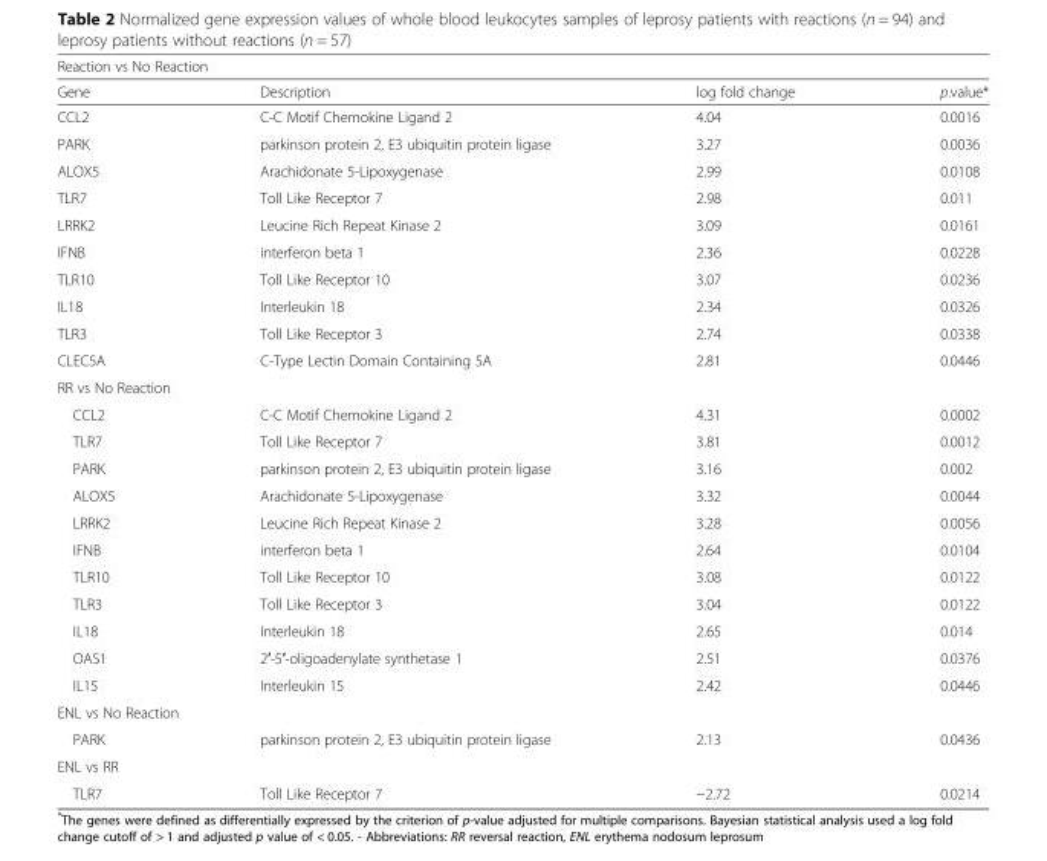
<table><thead><tr><td colspan="4">Reaction vs No Reaction</td></tr><tr><td>Gene</td><td>Description</td><td>log fold change</td><td>p.value*</td></tr></thead><tbody><tr><td>CCL2</td><td>C-C Motif Chemokine Ligand 2</td><td>4.04</td><td>0.0016</td></tr><tr><td>PARK</td><td>parkinson protein 2, E3 ubiquitin protein ligase</td><td>3.27</td><td>0.0036</td></tr><tr><td>ALOX5</td><td>Arachidonate 5-Lipoxygenase</td><td>2.99</td><td>0.0108</td></tr><tr><td>TLR7</td><td>Toll Like Receptor 7</td><td>2.98</td><td>0.011</td></tr><tr><td>LRRK2</td><td>Leucine Rich Repeat Kinase 2</td><td>3.09</td><td>0.0161</td></tr><tr><td>IFNB</td><td>interferon beta 1</td><td>2.36</td><td>0.0228</td></tr><tr><td>TLR10</td><td>Toll Like Receptor 10</td><td>3.07</td><td>0.0236</td></tr><tr><td>IL18</td><td>Interleukin 18</td><td>2.34</td><td>0.0326</td></tr><tr><td>TLR3</td><td>Toll Like Receptor 3</td><td>2.74</td><td>0.0338</td></tr><tr><td>CLEC5A</td><td>C-Type Lectin Domain Containing 5A</td><td>2.81</td><td>0.0446</td></tr><tr><td colspan="4">RR vs No Reaction</td></tr><tr><td>CCL2</td><td>C-C Motif Chemokine Ligand 2</td><td>4.31</td><td>0.0002</td></tr><tr><td>TLR7</td><td>Toll Like Receptor 7</td><td>3.81</td><td>0.0012</td></tr><tr><td>PARK</td><td>parkinson protein 2, E3 ubiquitin protein ligase</td><td>3.16</td><td>0.002</td></tr><tr><td>ALOX5</td><td>Arachidonate 5-Lipoxygenase</td><td>3.32</td><td>0.0044</td></tr><tr><td>LRRK2</td><td>Leucine Rich Repeat Kinase 2</td><td>3.28</td><td>0.0056</td></tr><tr><td>IFNB</td><td>interferon beta 1</td><td>2.64</td><td>0.0104</td></tr><tr><td>TLR10</td><td>Toll Like Receptor 10</td><td>3.08</td><td>0.0122</td></tr><tr><td>TLR3</td><td>Toll Like Receptor 3</td><td>3.04</td><td>0.0122</td></tr><tr><td>IL18</td><td>Interleukin 18</td><td>2.65</td><td>0.014</td></tr><tr><td>OAS1</td><td>2′-5′-oligoadenylate synthetase 1</td><td>2.51</td><td>0.0376</td></tr><tr><td>IL15</td><td>Interleukin 15</td><td>2.42</td><td>0.0446</td></tr><tr><td colspan="4">ENL vs No Reaction</td></tr><tr><td>PARK</td><td>parkinson protein 2, E3 ubiquitin protein ligase</td><td>2.13</td><td>0.0436</td></tr><tr><td colspan="4">ENL vs RR</td></tr><tr><td>TLR7</td><td>Toll Like Receptor 7</td><td>−2.72</td><td>0.0214</td></tr></tbody></table>